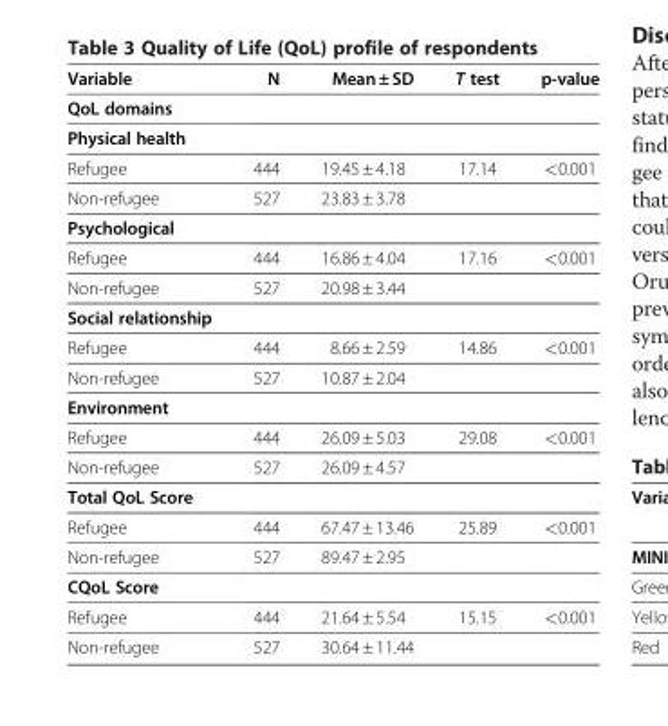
<table><thead><tr><td>Variable</td><td>N</td><td>Mean ± SD</td><td>T test</td><td>p-value</td></tr></thead><tbody><tr><td colspan="5">QoL domains</td></tr><tr><td colspan="5">Physical health</td></tr><tr><td>Refugee</td><td>444</td><td>19.45 ± 4.18</td><td>17.14</td><td>&lt;0.001</td></tr><tr><td>Non-refugee</td><td>527</td><td>23.83 ± 3.78</td><td></td><td></td></tr><tr><td colspan="5">Psychological</td></tr><tr><td>Refugee</td><td>444</td><td>16.86 ± 4.04</td><td>17.16</td><td>&lt;0.001</td></tr><tr><td>Non-refugee</td><td>527</td><td>20.98 ± 3.44</td><td></td><td></td></tr><tr><td colspan="5">Social relationship</td></tr><tr><td>Refugee</td><td>444</td><td>8.66 ± 2.59</td><td>14.86</td><td>&lt;0.001</td></tr><tr><td>Non-refugee</td><td>527</td><td>10.87 ± 2.04</td><td></td><td></td></tr><tr><td colspan="5">Environment</td></tr><tr><td>Refugee</td><td>444</td><td>26.09 ± 5.03</td><td>29.08</td><td>&lt;0.001</td></tr><tr><td>Non-refugee</td><td>527</td><td>26.09 ± 4.57</td><td></td><td></td></tr><tr><td colspan="5">Total QoL Score</td></tr><tr><td>Refugee</td><td>444</td><td>67.47 ± 13.46</td><td>25.89</td><td>&lt;0.001</td></tr><tr><td>Non-refugee</td><td>527</td><td>89.47 ± 2.95</td><td></td><td></td></tr><tr><td colspan="5">CQoL Score</td></tr><tr><td>Refugee</td><td>444</td><td>21.64 ± 5.54</td><td>15.15</td><td>&lt;0.001</td></tr><tr><td>Non-refugee</td><td>527</td><td>30.64 ± 11.44</td><td></td><td></td></tr></tbody></table>